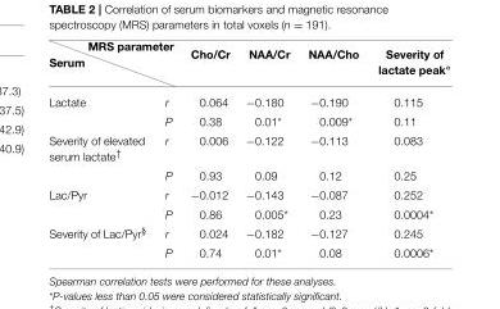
<table><thead><tr><td>Serum</td><td></td><td>Cho/Cr</td><td>NAA/Cr</td><td>NAA/Cho</td><td>Severity of lactate peak◦</td></tr></thead><tbody><tr><td rowspan="2">Lactate</td><td>r</td><td>0.064</td><td>−0.180</td><td>−0.190</td><td>0.115</td></tr><tr><td>P</td><td>0.38</td><td>0.01*</td><td>0.009*</td><td>0.11</td></tr><tr><td rowspan="2">Severity of elevated serum lactate<sup>†</sup></td><td>r</td><td>0.006</td><td>−0.122</td><td>−0.113</td><td>0.083</td></tr><tr><td>P</td><td>0.93</td><td>0.09</td><td>0.12</td><td>0.25</td></tr><tr><td rowspan="2">Lac/Pyr</td><td>r</td><td>−0.012</td><td>−0.143</td><td>−0.087</td><td>0.252</td></tr><tr><td>P</td><td>0.86</td><td>0.005*</td><td>0.23</td><td>0.0004*</td></tr><tr><td rowspan="2">Severity of Lac/Pyr<sup>§</sup></td><td>r</td><td>0.024</td><td>−0.182</td><td>−0.127</td><td>0.245</td></tr><tr><td>P</td><td>0.74</td><td>0.01*</td><td>0.08</td><td>0.0006*</td></tr></tbody></table>